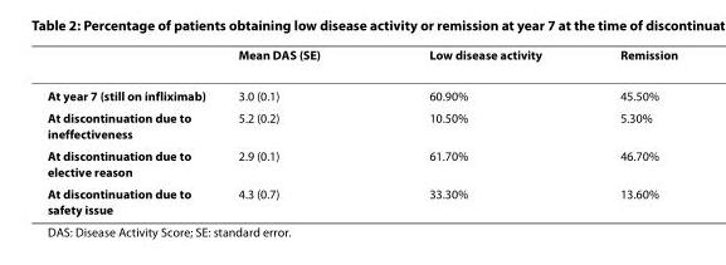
<table><thead><tr><td></td><td>Mean DAS (SE)</td><td>Low disease activity</td><td>Remission</td></tr></thead><tbody><tr><td>At year 7 (still on infliximab)</td><td>3.0 (0.1)</td><td>60.90%</td><td>45.50%</td></tr><tr><td>At discontinuation due to ineffectiveness</td><td>5.2 (0.2)</td><td>10.50%</td><td>5.30%</td></tr><tr><td>At discontinuation due to elective reason</td><td>2.9 (0.1)</td><td>61.70%</td><td>46.70%</td></tr><tr><td>At discontinuation due to safety issue</td><td>4.3 (0.7)</td><td>33.30%</td><td>13.60%</td></tr></tbody></table>